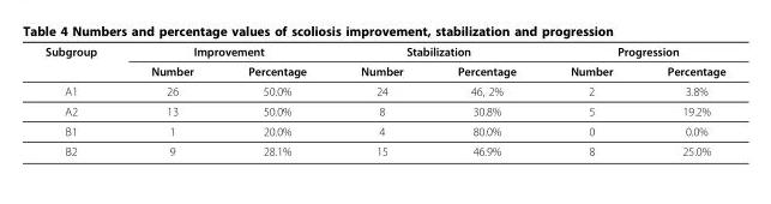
<table><thead><tr><td rowspan="2">Subgroup</td><td colspan="2">Improvement</td><td colspan="2">Stabilization</td><td colspan="2">Progression</td></tr><tr><td>Number</td><td>Percentage</td><td>Number</td><td>Percentage</td><td>Number</td><td>Percentage</td></tr></thead><tbody><tr><td>A1</td><td>26</td><td>50.0%</td><td>24</td><td>46, 2%</td><td>2</td><td>3.8%</td></tr><tr><td>A2</td><td>13</td><td>50.0%</td><td>8</td><td>30.8%</td><td>5</td><td>19.2%</td></tr><tr><td>B1</td><td>1</td><td>20.0%</td><td>4</td><td>80.0%</td><td>0</td><td>0.0%</td></tr><tr><td>B2</td><td>9</td><td>28.1%</td><td>15</td><td>46.9%</td><td>8</td><td>25.0%</td></tr></tbody></table>